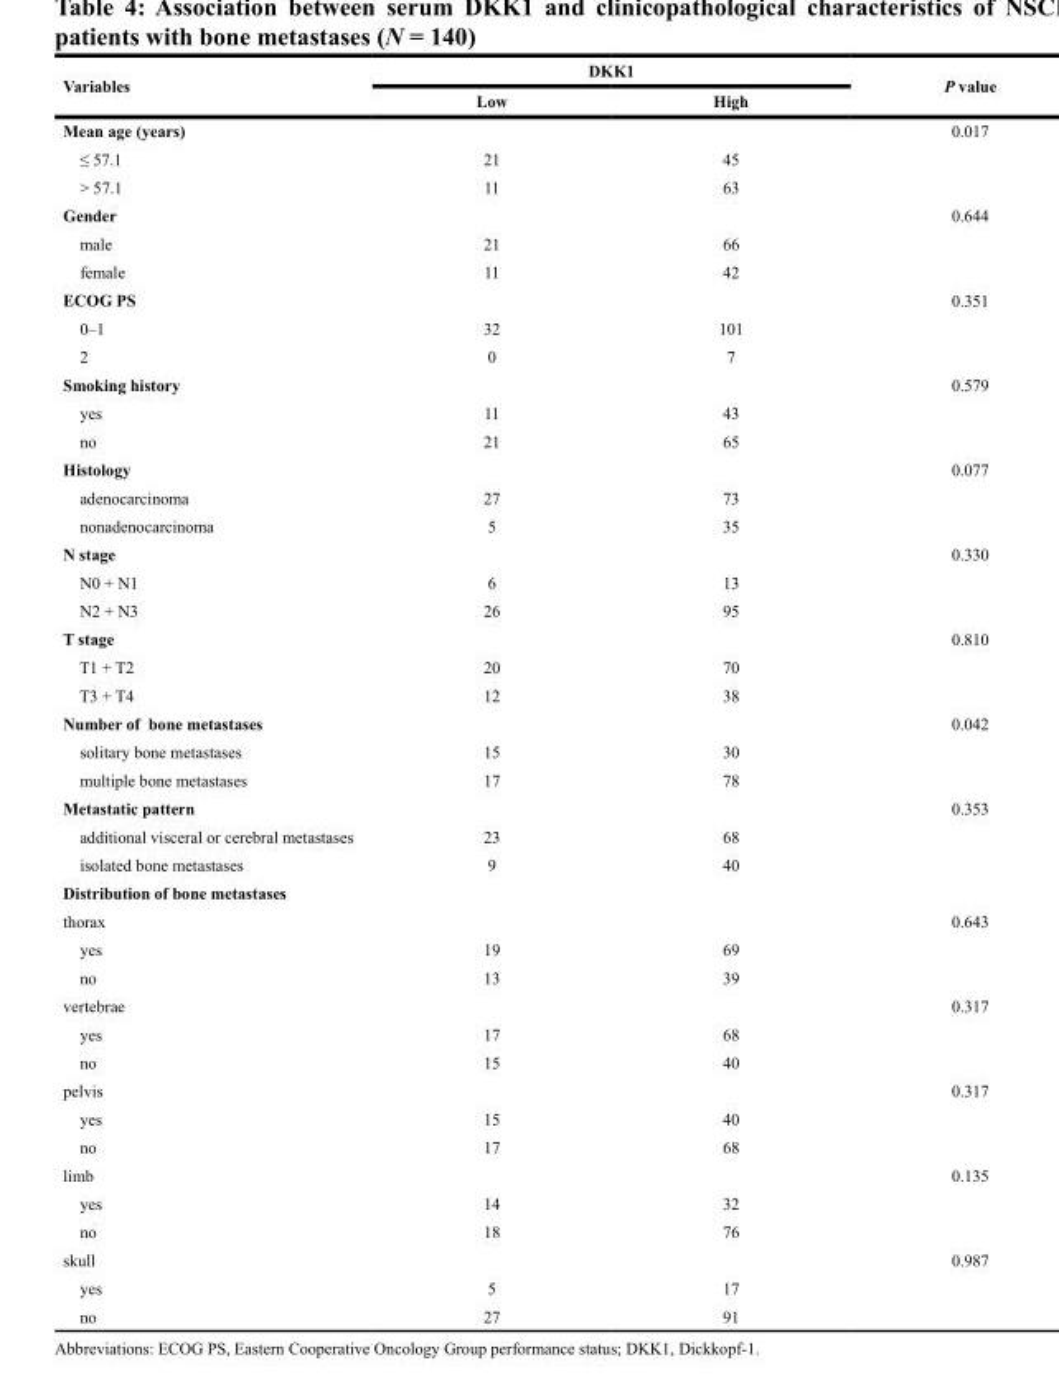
<table><thead><tr><td rowspan="2">Variables</td><td colspan="2">DKK1</td><td rowspan="2">P value</td></tr><tr><td>Low</td><td>High</td></tr></thead><tbody><tr><td>Mean age (years)</td><td></td><td></td><td>0.017</td></tr><tr><td>≤ 57.1</td><td>21</td><td>45</td><td></td></tr><tr><td>&gt; 57.1</td><td>11</td><td>63</td><td></td></tr><tr><td>Gender</td><td></td><td></td><td>0.644</td></tr><tr><td>male</td><td>21</td><td>66</td><td></td></tr><tr><td>female</td><td>11</td><td>42</td><td></td></tr><tr><td>ECOG PS</td><td></td><td></td><td>0.351</td></tr><tr><td>0–1</td><td>32</td><td>101</td><td></td></tr><tr><td>2</td><td>0</td><td>7</td><td></td></tr><tr><td>Smoking history</td><td></td><td></td><td>0.579</td></tr><tr><td>yes</td><td>11</td><td>43</td><td></td></tr><tr><td>no</td><td>21</td><td>65</td><td></td></tr><tr><td>Histology</td><td></td><td></td><td>0.077</td></tr><tr><td>adenocarcinoma</td><td>27</td><td>73</td><td></td></tr><tr><td>nonadenocarcinoma</td><td>5</td><td>35</td><td></td></tr><tr><td>N stage</td><td></td><td></td><td>0.330</td></tr><tr><td>N0 + N1</td><td>6</td><td>13</td><td></td></tr><tr><td>N2 + N3</td><td>26</td><td>95</td><td></td></tr><tr><td>T stage</td><td></td><td></td><td>0.810</td></tr><tr><td>T1 + T2</td><td>20</td><td>70</td><td></td></tr><tr><td>T3 + T4</td><td>12</td><td>38</td><td></td></tr><tr><td>Number of bone metastases</td><td></td><td></td><td>0.042</td></tr><tr><td>solitary bone metastases</td><td>15</td><td>30</td><td></td></tr><tr><td>multiple bone metastases</td><td>17</td><td>78</td><td></td></tr><tr><td>Metastatic pattern</td><td></td><td></td><td>0.353</td></tr><tr><td>additional visceral or cerebral metastases</td><td>23</td><td>68</td><td></td></tr><tr><td>isolated bone metastases</td><td>9</td><td>40</td><td></td></tr><tr><td colspan="4">Distribution of bone metastases</td></tr><tr><td>thorax</td><td></td><td></td><td>0.643</td></tr><tr><td>yes</td><td>19</td><td>69</td><td></td></tr><tr><td>no</td><td>13</td><td>39</td><td></td></tr><tr><td>vertebrae</td><td></td><td></td><td>0.317</td></tr><tr><td>yes</td><td>17</td><td>68</td><td></td></tr><tr><td>no</td><td>15</td><td>40</td><td></td></tr><tr><td>pelvis</td><td></td><td></td><td>0.317</td></tr><tr><td>yes</td><td>15</td><td>40</td><td></td></tr><tr><td>no</td><td>17</td><td>68</td><td></td></tr><tr><td>limb</td><td></td><td></td><td>0.135</td></tr><tr><td>yes</td><td>14</td><td>32</td><td></td></tr><tr><td>no</td><td>18</td><td>76</td><td></td></tr><tr><td>skull</td><td></td><td></td><td>0.987</td></tr><tr><td>yes</td><td>5</td><td>17</td><td></td></tr><tr><td>no</td><td>27</td><td>91</td><td></td></tr></tbody></table>